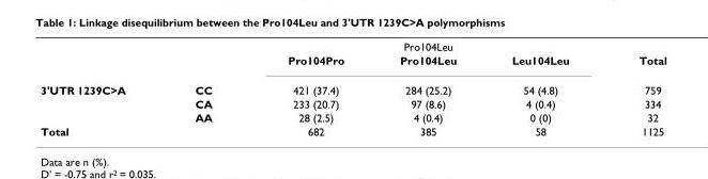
<table><thead><tr><td rowspan="2"></td><td rowspan="2"></td><td colspan="3">Pro104Leu</td><td rowspan="2">Total</td></tr><tr><td>Pro104Pro</td><td>Pro104Leu</td><td>Leu104Leu</td></tr></thead><tbody><tr><td rowspan="3">3&#x27;UTR 1239C&gt;A</td><td>CC</td><td>421 (37.4)</td><td>284 (25.2)</td><td>54 (4.8)</td><td>759</td></tr><tr><td>CA</td><td>233 (20.7)</td><td>97 (8.6)</td><td>4 (0.4)</td><td>334</td></tr><tr><td>AA</td><td>28 (2.5)</td><td>4 (0.4)</td><td>0 (0)</td><td>32</td></tr><tr><td>Total</td><td></td><td>682</td><td>385</td><td>58</td><td>1125</td></tr></tbody></table>